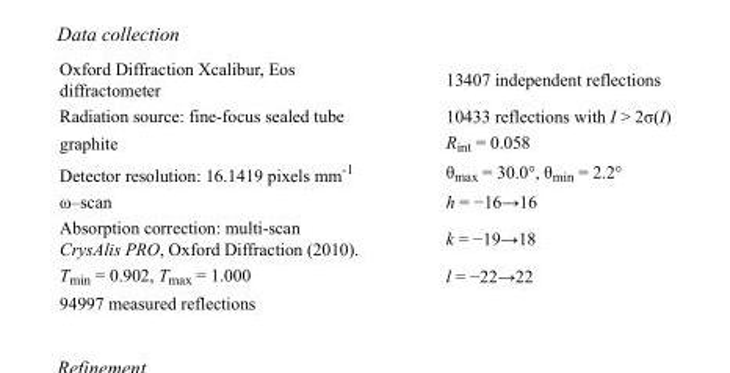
<table><tbody><tr><td>Oxford Diffraction Xcalibur, Eos diffractometer</td><td>13407 independent reflections</td></tr><tr><td>Radiation source: fine-focus sealed tube</td><td>10433 reflections with I &gt; 2σ(I)</td></tr><tr><td>graphite</td><td>R<sub>int</sub> = 0.058</td></tr><tr><td>Detector resolution: 16.1419 pixels mm<sup>-1</sup></td><td>θ<sub>max</sub> = 30.0°, θ<sub>min</sub> = 2.2°</td></tr><tr><td>ω–scan</td><td>h = −16→16</td></tr><tr><td>Absorption correction: multi-scan CrysAlis PRO, Oxford Diffraction (2010).</td><td>k = −19→18</td></tr><tr><td>T<sub>min</sub> = 0.902, T<sub>max</sub> = 1.000</td><td>l = −22→22</td></tr><tr><td>94997 measured reflections</td><td></td></tr></tbody></table>